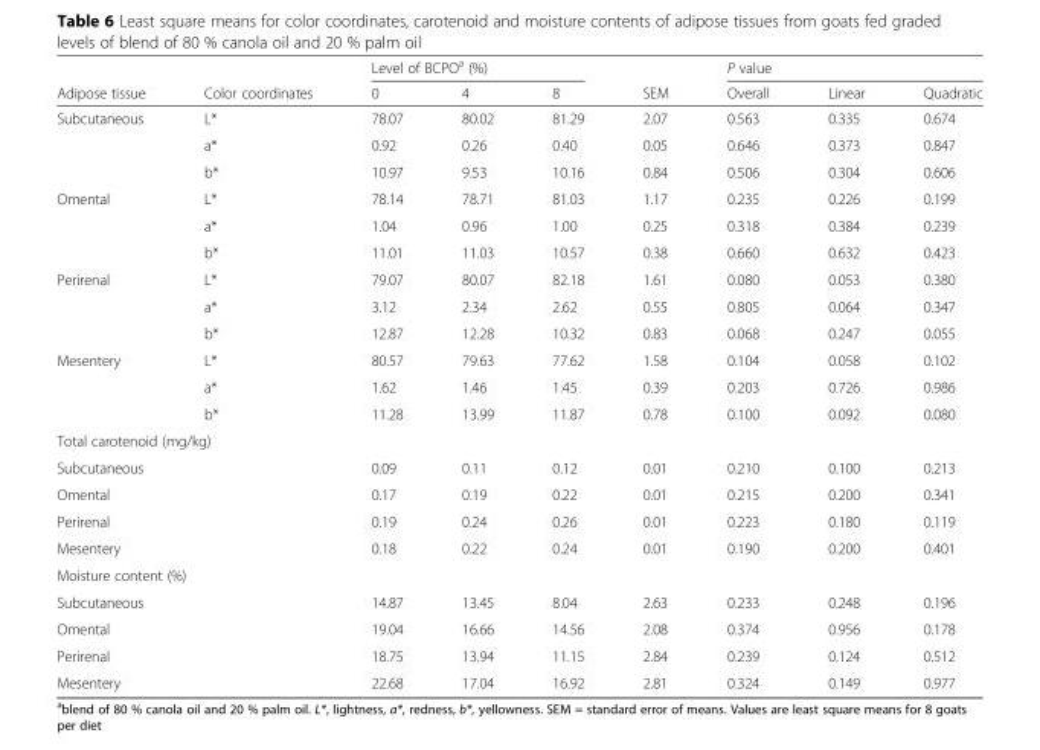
<table><thead><tr><td rowspan="2">Adipose tissue</td><td rowspan="2">Color coordinates</td><td colspan="3">Level of BCPO<sup>a</sup> (%)</td><td rowspan="2">SEM</td><td colspan="3">P value</td></tr><tr><td>0</td><td>4</td><td>8</td><td>Overall</td><td>Linear</td><td>Quadratic</td></tr></thead><tbody><tr><td rowspan="3">Subcutaneous</td><td>L*</td><td>78.07</td><td>80.02</td><td>81.29</td><td>2.07</td><td>0.563</td><td>0.335</td><td>0.674</td></tr><tr><td>a*</td><td>0.92</td><td>0.26</td><td>0.40</td><td>0.05</td><td>0.646</td><td>0.373</td><td>0.847</td></tr><tr><td>b*</td><td>10.97</td><td>9.53</td><td>10.16</td><td>0.84</td><td>0.506</td><td>0.304</td><td>0.606</td></tr><tr><td rowspan="3">Omental</td><td>L*</td><td>78.14</td><td>78.71</td><td>81.03</td><td>1.17</td><td>0.235</td><td>0.226</td><td>0.199</td></tr><tr><td>a*</td><td>1.04</td><td>0.96</td><td>1.00</td><td>0.25</td><td>0.318</td><td>0.384</td><td>0.239</td></tr><tr><td>b*</td><td>11.01</td><td>11.03</td><td>10.57</td><td>0.38</td><td>0.660</td><td>0.632</td><td>0.423</td></tr><tr><td rowspan="3">Perirenal</td><td>L*</td><td>79.07</td><td>80.07</td><td>82.18</td><td>1.61</td><td>0.080</td><td>0.053</td><td>0.380</td></tr><tr><td>a*</td><td>3.12</td><td>2.34</td><td>2.62</td><td>0.55</td><td>0.805</td><td>0.064</td><td>0.347</td></tr><tr><td>b*</td><td>12.87</td><td>12.28</td><td>10.32</td><td>0.83</td><td>0.068</td><td>0.247</td><td>0.055</td></tr><tr><td rowspan="3">Mesentery</td><td>L*</td><td>80.57</td><td>79.63</td><td>77.62</td><td>1.58</td><td>0.104</td><td>0.058</td><td>0.102</td></tr><tr><td>a*</td><td>1.62</td><td>1.46</td><td>1.45</td><td>0.39</td><td>0.203</td><td>0.726</td><td>0.986</td></tr><tr><td>b*</td><td>11.28</td><td>13.99</td><td>11.87</td><td>0.78</td><td>0.100</td><td>0.092</td><td>0.080</td></tr><tr><td colspan="9">Total carotenoid (mg/kg)</td></tr><tr><td>Subcutaneous</td><td></td><td>0.09</td><td>0.11</td><td>0.12</td><td>0.01</td><td>0.210</td><td>0.100</td><td>0.213</td></tr><tr><td>Omental</td><td></td><td>0.17</td><td>0.19</td><td>0.22</td><td>0.01</td><td>0.215</td><td>0.200</td><td>0.341</td></tr><tr><td>Perirenal</td><td></td><td>0.19</td><td>0.24</td><td>0.26</td><td>0.01</td><td>0.223</td><td>0.180</td><td>0.119</td></tr><tr><td>Mesentery</td><td></td><td>0.18</td><td>0.22</td><td>0.24</td><td>0.01</td><td>0.190</td><td>0.200</td><td>0.401</td></tr><tr><td colspan="9">Moisture content (%)</td></tr><tr><td>Subcutaneous</td><td></td><td>14.87</td><td>13.45</td><td>8.04</td><td>2.63</td><td>0.233</td><td>0.248</td><td>0.196</td></tr><tr><td>Omental</td><td></td><td>19.04</td><td>16.66</td><td>14.56</td><td>2.08</td><td>0.374</td><td>0.956</td><td>0.178</td></tr><tr><td>Perirenal</td><td></td><td>18.75</td><td>13.94</td><td>11.15</td><td>2.84</td><td>0.239</td><td>0.124</td><td>0.512</td></tr><tr><td>Mesentery</td><td></td><td>22.68</td><td>17.04</td><td>16.92</td><td>2.81</td><td>0.324</td><td>0.149</td><td>0.977</td></tr></tbody></table>